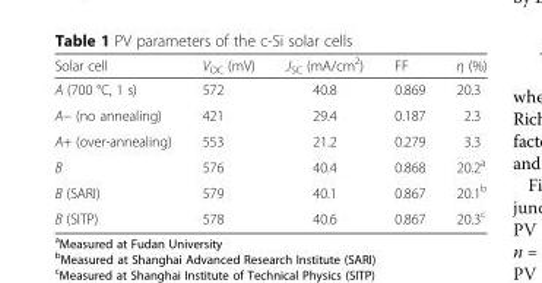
<table><thead><tr><td>Solar cell</td><td>V<sub>OC</sub> (mV)</td><td>J<sub>SC</sub> (mA/cm<sup>2</sup>)</td><td>FF</td><td>η (%)</td></tr></thead><tbody><tr><td>A (700 °C, 1 s)</td><td>572</td><td>40.8</td><td>0.869</td><td>20.3</td></tr><tr><td>A− (no annealing)</td><td>421</td><td>29.4</td><td>0.187</td><td>2.3</td></tr><tr><td>A+ (over-annealing)</td><td>553</td><td>21.2</td><td>0.279</td><td>3.3</td></tr><tr><td>B</td><td>576</td><td>40.4</td><td>0.868</td><td>20.2<sup>a</sup></td></tr><tr><td>B (SARI)</td><td>579</td><td>40.1</td><td>0.867</td><td>20.1<sup>b</sup></td></tr><tr><td>B (SITP)</td><td>578</td><td>40.6</td><td>0.867</td><td>20.3<sup>c</sup></td></tr></tbody></table>